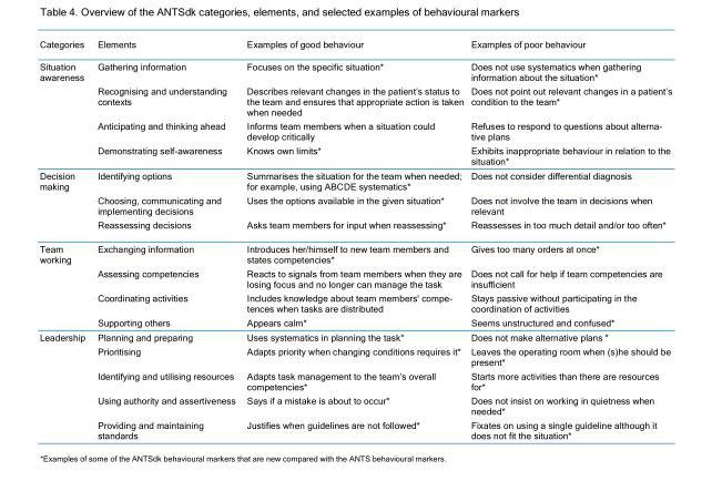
<table><tbody><tr><td>Categories</td><td>Elements</td><td>Examples of good behaviour</td><td>Examples of poor behaviour</td></tr><tr><td rowspan="4">Situation awareness</td><td>Gathering information</td><td>Focuses on the specific situation*</td><td>Does not use systematics when gathering information about the situation*</td></tr><tr><td>Recognising and understanding contexts</td><td>Describes relevant changes in the patient’s status to the team and ensures that appropriate action is taken when needed</td><td>Does not point out relevant changes in a patient’s condition to the team*</td></tr><tr><td>Anticipating and thinking ahead</td><td>Informs team members when a situation could develop critically</td><td>Refuses to respond to questions about alterna- tive plans</td></tr><tr><td>Demonstrating self-awareness</td><td>Knows own limits*</td><td>Exhibits inappropriate behaviour in relation to the situation*</td></tr><tr><td rowspan="3">Decision making</td><td>Identifying options</td><td>Summarises the situation for the team when needed; for example, using ABCDE systematics*</td><td>Does not consider differential diagnosis</td></tr><tr><td>Choosing, communicating and implementing decisions</td><td>Uses the options available in the given situation*</td><td>Does not involve the team in decisions when relevant</td></tr><tr><td>Reassessing decisions</td><td>Asks team members for input when reassessing*</td><td>Reassesses in too much detail and/or too often*</td></tr><tr><td rowspan="4">Team working</td><td>Exchanging information</td><td>Introduces her/himself to new team members and states competencies*</td><td>Gives too many orders at once*</td></tr><tr><td>Assessing competencies</td><td>Reacts to signals from team members when they are losing focus and no longer can manage the task</td><td>Does not call for help if team competencies are insufficient</td></tr><tr><td>Coordinating activities</td><td>Includes knowledge about team members&#x27; compe- tences when tasks are distributed</td><td>Stays passive without participating in the coordination of activities</td></tr><tr><td>Supporting others</td><td>Appears calm*</td><td>Seems unstructured and confused*</td></tr><tr><td rowspan="5">Leadership</td><td>Planning and preparing</td><td>Uses systematics in planning the task*</td><td>Does not make alternative plans *</td></tr><tr><td>Prioritising</td><td>Adapts priority when changing conditions requires it*</td><td>Leaves the operating room when (s)he should be present*</td></tr><tr><td>Identifying and utilising resources</td><td>Adapts task management to the team’s overall competencies*</td><td>Starts more activities than there are resources for*</td></tr><tr><td>Using authority and assertiveness</td><td>Says if a mistake is about to occur*</td><td>Does not insist on working in quietness when needed*</td></tr><tr><td>Providing and maintaining standards</td><td>Justifies when guidelines are not followed*</td><td>Fixates on using a single guideline although it does not fit the situation*</td></tr></tbody></table>